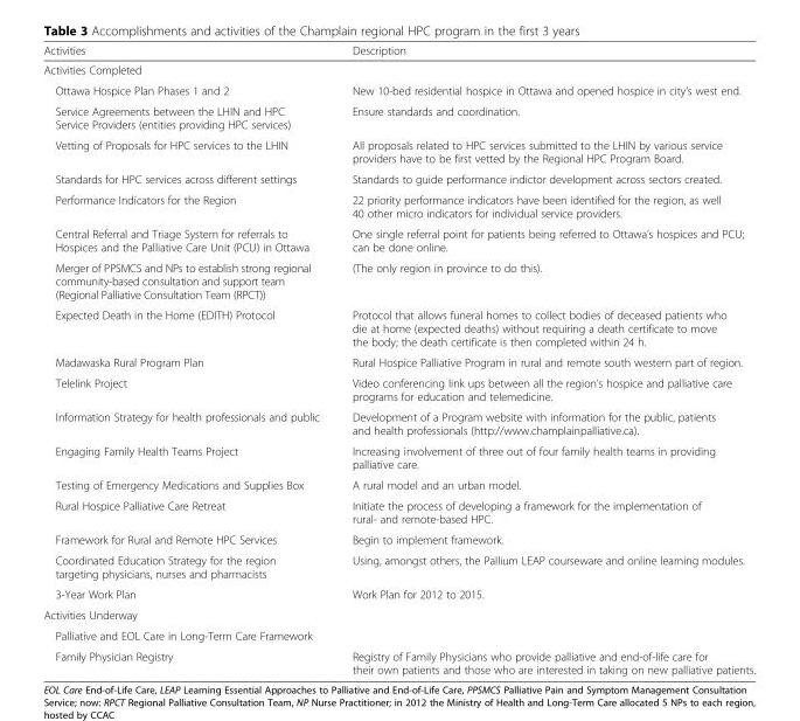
<table><thead><tr><td>Activities</td><td>Description</td></tr></thead><tbody><tr><td colspan="2">Activities Completed</td></tr><tr><td>Ottawa Hospice Plan Phases 1 and 2</td><td>New 10-bed residential hospice in Ottawa and opened hospice in city’s west end.</td></tr><tr><td>Service Agreements between the LHIN and HPC Service Providers (entities providing HPC services)</td><td>Ensure standards and coordination.</td></tr><tr><td>Vetting of Proposals for HPC services to the LHIN</td><td>All proposals related to HPC services submitted to the LHIN by various service providers have to be first vetted by the Regional HPC Program Board.</td></tr><tr><td>Standards for HPC services across different settings</td><td>Standards to guide performance indictor development across sectors created.</td></tr><tr><td>Performance Indicators for the Region</td><td>22 priority performance indicators have been identified for the region, as well 40 other micro indicators for individual service providers.</td></tr><tr><td>Central Referral and Triage System for referrals to Hospices and the Palliative Care Unit (PCU) in Ottawa</td><td>One single referral point for patients being referred to Ottawa’s hospices and PCU; can be done online.</td></tr><tr><td>Merger of PPSMCS and NPs to establish strong regional community-based consultation and support team (Regional Palliative Consultation Team (RPCT))</td><td>(The only region in province to do this).</td></tr><tr><td>Expected Death in the Home (EDITH) Protocol</td><td>Protocol that allows funeral homes to collect bodies of deceased patients who die at home (expected deaths) without requiring a death certificate to move the body; the death certificate is then completed within 24 h.</td></tr><tr><td>Madawaska Rural Program Plan</td><td>Rural Hospice Palliative Program in rural and remote south western part of region.</td></tr><tr><td>Telelink Project</td><td>Video conferencing link ups between all the region’s hospice and palliative care programs for education and telemedicine.</td></tr><tr><td>Information Strategy for health professionals and public</td><td>Development of a Program website with information for the public, patients and health professionals (http://www.champlainpalliative.ca).</td></tr><tr><td>Engaging Family Health Teams Project</td><td>Increasing involvement of three out of four family health teams in providing palliative care.</td></tr><tr><td>Testing of Emergency Medications and Supplies Box</td><td>A rural model and an urban model.</td></tr><tr><td>Rural Hospice Palliative Care Retreat</td><td>Initiate the process of developing a framework for the implementation of rural- and remote-based HPC.</td></tr><tr><td>Framework for Rural and Remote HPC Services</td><td>Begin to implement framework.</td></tr><tr><td>Coordinated Education Strategy for the region targeting physicians, nurses and pharmacists</td><td>Using, amongst others, the Pallium LEAP courseware and online learning modules.</td></tr><tr><td>3-Year Work Plan</td><td>Work Plan for 2012 to 2015.</td></tr><tr><td colspan="2">Activities Underway</td></tr><tr><td colspan="2">Palliative and EOL Care in Long-Term Care Framework</td></tr><tr><td>Family Physician Registry</td><td>Registry of Family Physicians who provide palliative and end-of-life care for their own patients and those who are interested in taking on new palliative patients.</td></tr></tbody></table>